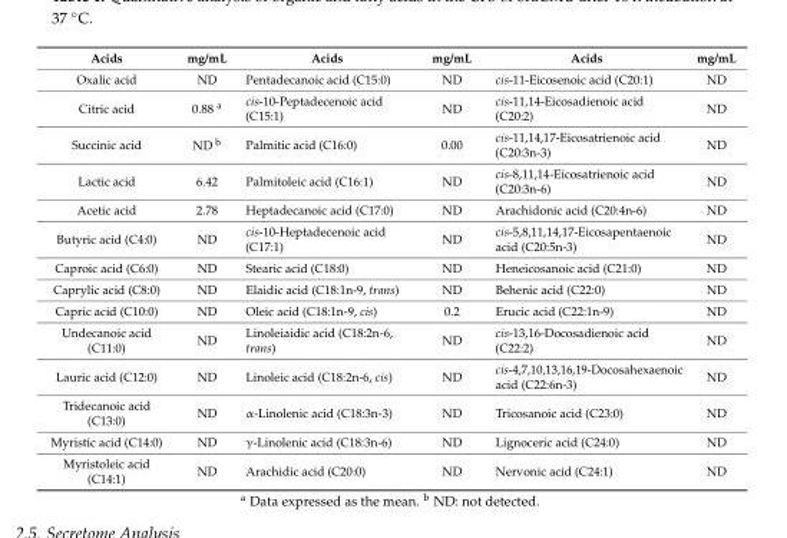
<table><thead><tr><td>Acids</td><td>mg/mL</td><td>Acids</td><td>mg/mL</td><td>Acids</td><td>mg/mL</td></tr></thead><tbody><tr><td>Oxalic acid</td><td>ND</td><td>Pentadecanoic acid (C15:0)</td><td>ND</td><td>cis-11-Eicosenoic acid (C20:1)</td><td>ND</td></tr><tr><td>Citric acid</td><td>0.88 <sup>a</sup></td><td>cis-10-Peptadecenoic acid (C15:1)</td><td>ND</td><td>cis-11,14-Eicosadienoic acid (C20:2)</td><td>ND</td></tr><tr><td>Succinic acid</td><td>ND <sup>b</sup></td><td>Palmitic acid (C16:0)</td><td>0.00</td><td>cis-11,14,17-Eicosatrienoic acid (C20:3n-3)</td><td>ND</td></tr><tr><td>Lactic acid</td><td>6.42</td><td>Palmitoleic acid (C16:1)</td><td>ND</td><td>cis-8,11,14-Eicosatrienoic acid (C20:3n-6)</td><td>ND</td></tr><tr><td>Acetic acid</td><td>2.78</td><td>Heptadecanoic acid (C17:0)</td><td>ND</td><td>Arachidonic acid (C20:4n-6)</td><td>ND</td></tr><tr><td>Butyric acid (C4:0)</td><td>ND</td><td>cis-10-Heptadecenoic acid (C17:1)</td><td>ND</td><td>cis-5,8,11,14,17-Eicosapentaenoic acid (C20:5n-3)</td><td>ND</td></tr><tr><td>Caproic acid (C6:0)</td><td>ND</td><td>Stearic acid (C18:0)</td><td>ND</td><td>Heneicosanoic acid (C21:0)</td><td>ND</td></tr><tr><td>Caprylic acid (C8:0)</td><td>ND</td><td>Elaidic acid (C18:1n-9, trans)</td><td>ND</td><td>Behenic acid (C22:0)</td><td>ND</td></tr><tr><td>Capric acid (C10:0)</td><td>ND</td><td>Oleic acid (C18:1n-9, cis)</td><td>0.2</td><td>Erucic acid (C22:1n-9)</td><td>ND</td></tr><tr><td>Undecanoic acid (C11:0)</td><td>ND</td><td>Linoleiaidic acid (C18:2n-6, trans)</td><td>ND</td><td>cis-13,16-Docosadienoic acid (C22:2)</td><td>ND</td></tr><tr><td>Lauric acid (C12:0)</td><td>ND</td><td>Linoleic acid (C18:2n-6, cis)</td><td>ND</td><td>cis-4,7,10,13,16,19-Docosahexaenoic acid (C22:6n-3)</td><td>ND</td></tr><tr><td>Tridecanoic acid (C13:0)</td><td>ND</td><td>α-Linolenic acid (C18:3n-3)</td><td>ND</td><td>Tricosanoic acid (C23:0)</td><td>ND</td></tr><tr><td>Myristic acid (C14:0)</td><td>ND</td><td>γ-Linolenic acid (C18:3n-6)</td><td>ND</td><td>Lignoceric acid (C24:0)</td><td>ND</td></tr><tr><td>Myristoleic acid (C14:1)</td><td>ND</td><td>Arachidic acid (C20:0)</td><td>ND</td><td>Nervonic acid (C24:1)</td><td>ND</td></tr></tbody></table>